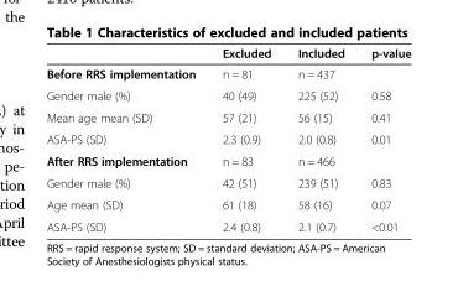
<table><thead><tr><td></td><td>Excluded</td><td>Included</td><td>p-value</td></tr></thead><tbody><tr><td>Before RRS implementation</td><td>n = 81</td><td>n = 437</td><td></td></tr><tr><td>Gender male (%)</td><td>40 (49)</td><td>225 (52)</td><td>0.58</td></tr><tr><td>Mean age mean (SD)</td><td>57 (21)</td><td>56 (15)</td><td>0.41</td></tr><tr><td>ASA-PS (SD)</td><td>2.3 (0.9)</td><td>2.0 (0.8)</td><td>0.01</td></tr><tr><td>After RRS implementation</td><td>n = 83</td><td>n = 466</td><td></td></tr><tr><td>Gender male (%)</td><td>42 (51)</td><td>239 (51)</td><td>0.83</td></tr><tr><td>Age mean (SD)</td><td>61 (18)</td><td>58 (16)</td><td>0.07</td></tr><tr><td>ASA-PS (SD)</td><td>2.4 (0.8)</td><td>2.1 (0.7)</td><td>&lt;0.01</td></tr></tbody></table>